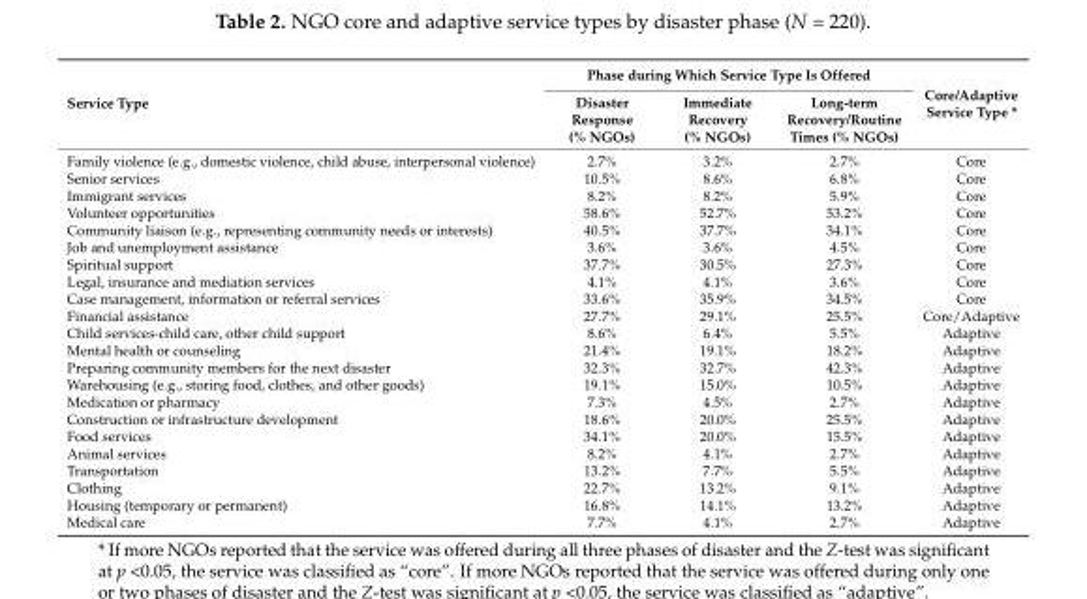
<table><thead><tr><td rowspan="2">Service Type</td><td colspan="3">Phase during Which Service Type Is Offered</td><td rowspan="2">Core/Adaptive Service Type *</td></tr><tr><td>Disaster Response (% NGOs)</td><td>Immediate Recovery (% NGOs)</td><td>Long-term Recovery/Routine Times (% NGOs)</td></tr></thead><tbody><tr><td>Family violence (e.g., domestic violence, child abuse, interpersonal violence)</td><td>2.7%</td><td>3.2%</td><td>2.7%</td><td>Core</td></tr><tr><td>Senior services</td><td>10.5%</td><td>8.6%</td><td>6.8%</td><td>Core</td></tr><tr><td>Immigrant services</td><td>8.2%</td><td>8.2%</td><td>5.9%</td><td>Core</td></tr><tr><td>Volunteer opportunities</td><td>58.6%</td><td>52.7%</td><td>53.2%</td><td>Core</td></tr><tr><td>Community liaison (e.g., representing community needs or interests)</td><td>40.5%</td><td>37.7%</td><td>34.1%</td><td>Core</td></tr><tr><td>Job and unemployment assistance</td><td>3.6%</td><td>3.6%</td><td>4.5%</td><td>Core</td></tr><tr><td>Spiritual support</td><td>37.7%</td><td>30.5%</td><td>27.3%</td><td>Core</td></tr><tr><td>Legal, insurance and mediation services</td><td>4.1%</td><td>4.1%</td><td>3.6%</td><td>Core</td></tr><tr><td>Case management, information or referral services</td><td>33.6%</td><td>35.9%</td><td>34.5%</td><td>Core</td></tr><tr><td>Financial assistance</td><td>27.7%</td><td>29.1%</td><td>25.5%</td><td>Core/Adaptive</td></tr><tr><td>Child services-child care, other child support</td><td>8.6%</td><td>6.4%</td><td>5.5%</td><td>Adaptive</td></tr><tr><td>Mental health or counseling</td><td>21.4%</td><td>19.1%</td><td>18.2%</td><td>Adaptive</td></tr><tr><td>Preparing community members for the next disaster</td><td>32.3%</td><td>32.7%</td><td>42.3%</td><td>Adaptive</td></tr><tr><td>Warehousing (e.g., storing food, clothes, and other goods)</td><td>19.1%</td><td>15.0%</td><td>10.5%</td><td>Adaptive</td></tr><tr><td>Medication or pharmacy</td><td>7.3%</td><td>4.5%</td><td>2.7%</td><td>Adaptive</td></tr><tr><td>Construction or infrastructure development</td><td>18.6%</td><td>20.0%</td><td>25.5%</td><td>Adaptive</td></tr><tr><td>Food services</td><td>34.1%</td><td>20.0%</td><td>15.5%</td><td>Adaptive</td></tr><tr><td>Animal services</td><td>8.2%</td><td>4.1%</td><td>2.7%</td><td>Adaptive</td></tr><tr><td>Transportation</td><td>13.2%</td><td>7.7%</td><td>5.5%</td><td>Adaptive</td></tr><tr><td>Clothing</td><td>22.7%</td><td>13.2%</td><td>9.1%</td><td>Adaptive</td></tr><tr><td>Housing (temporary or permanent)</td><td>16.8%</td><td>14.1%</td><td>13.2%</td><td>Adaptive</td></tr><tr><td>Medical care</td><td>7.7%</td><td>4.1%</td><td>2.7%</td><td>Adaptive</td></tr></tbody></table>